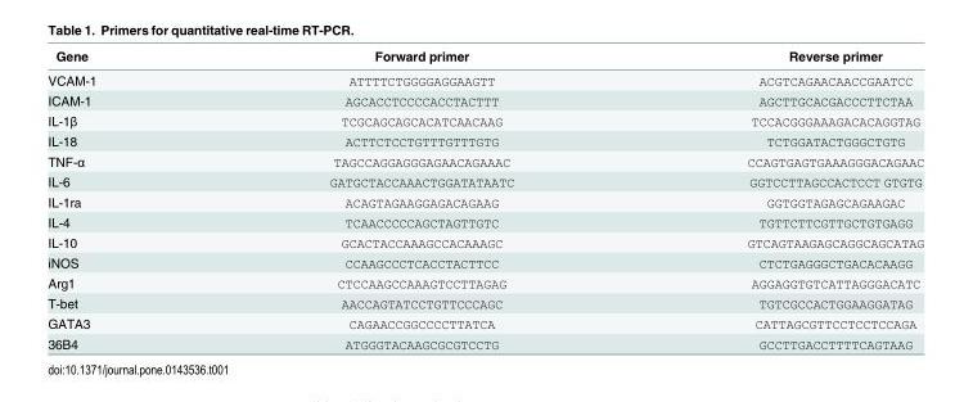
<table><thead><tr><td>Gene</td><td>Forward primer</td><td>Reverse primer</td></tr></thead><tbody><tr><td>VCAM-1</td><td>ATTTTCTGGGGAGGAAGTT</td><td>ACGTCAGAACAACCGAATCC</td></tr><tr><td>ICAM-1</td><td>AGCACCTCCCCACCTACTTT</td><td>AGCTTGCACGACCCTTCTAA</td></tr><tr><td>IL-1β</td><td>TCGCAGCAGCACATCAACAAG</td><td>TCCACGGGAAAGACACAGGTAG</td></tr><tr><td>IL-18</td><td>ACTTCTCCTGTTTGTTTGTG</td><td>TCTGGATACTGGGCTGTG</td></tr><tr><td>TNF-α</td><td>TAGCCAGGAGGGAGAACAGAAAC</td><td>CCAGTGAGTGAAAGGGACAGAAC</td></tr><tr><td>IL-6</td><td>GATGCTACCAAACTGGATATAATC</td><td>GGTCCTTAGCCACTCCT GTGTG</td></tr><tr><td>IL-1ra</td><td>ACAGTAGAAGGAGACAGAAG</td><td>GGTGGTAGAGCAGAAGAC</td></tr><tr><td>IL-4</td><td>TCAACCCCCAGCTAGTTGTC</td><td>TGTTCTTCGTTGCTGTGAGG</td></tr><tr><td>IL-10</td><td>GCACTACCAAAGCCACAAAGC</td><td>GTCAGTAAGAGCAGGCAGCATAG</td></tr><tr><td>iNOS</td><td>CCAAGCCCTCACCTACTTCC</td><td>CTCTGAGGGCTGACACAAGG</td></tr><tr><td>Arg1</td><td>CTCCAAGCCAAAGTCCTTAGAG</td><td>AGGAGGTGTCATTAGGGACATC</td></tr><tr><td>T-bet</td><td>AACCAGTATCCTGTTCCCAGC</td><td>TGTCGCCACTGGAAGGATAG</td></tr><tr><td>GATA3</td><td>CAGAACCGGCCCCTTATCA</td><td>CATTAGCGTTCCTCCTCCAGA</td></tr><tr><td>36B4</td><td>ATGGGTACAAGCGCGTCCTG</td><td>GCCTTGACCTTTTCAGTAAG</td></tr></tbody></table>